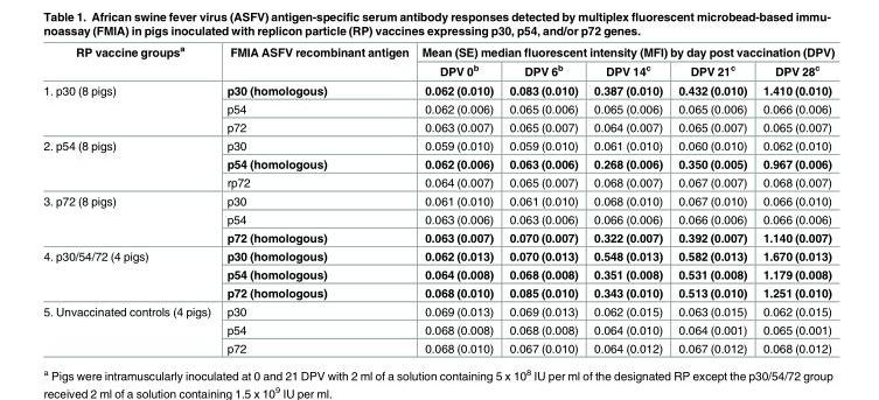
<table><thead><tr><td rowspan="2">RP vaccine groups<sup>a</sup></td><td rowspan="2">FMIA ASFV recombinant antigen</td><td colspan="5">Mean (SE) median fluorescent intensity (MFI) by day post vaccination (DPV)</td></tr><tr><td>DPV 0<sup>b</sup></td><td>DPV 6<sup>b</sup></td><td>DPV 14<sup>c</sup></td><td>DPV 21<sup>c</sup></td><td>DPV 28<sup>c</sup></td></tr></thead><tbody><tr><td rowspan="3">1. p30 (8 pigs)</td><td>p30 (homologous)</td><td>0.062 (0.010)</td><td>0.083 (0.010)</td><td>0.387 (0.010)</td><td>0.432 (0.010)</td><td>1.410 (0.010)</td></tr><tr><td>p54</td><td>0.062 (0.006)</td><td>0.065 (0.006)</td><td>0.065 (0.006)</td><td>0.065 (0.006)</td><td>0.066 (0.006)</td></tr><tr><td>p72</td><td>0.063 (0.007)</td><td>0.065 (0.007)</td><td>0.064 (0.007)</td><td>0.065 (0.007)</td><td>0.065 (0.007)</td></tr><tr><td rowspan="3">2. p54 (8 pigs)</td><td>p30</td><td>0.059 (0.010)</td><td>0.059 (0.010)</td><td>0.061 (0.010)</td><td>0.060 (0.010)</td><td>0.062 (0.010)</td></tr><tr><td>p54 (homologous)</td><td>0.062 (0.006)</td><td>0.063 (0.006)</td><td>0.268 (0.006)</td><td>0.350 (0.005)</td><td>0.967 (0.006)</td></tr><tr><td>rp72</td><td>0.064 (0.007)</td><td>0.065 (0.007)</td><td>0.068 (0.007)</td><td>0.067 (0.007)</td><td>0.068 (0.007)</td></tr><tr><td rowspan="3">3. p72 (8 pigs)</td><td>p30</td><td>0.061 (0.010)</td><td>0.061 (0.010)</td><td>0.068 (0.010)</td><td>0.067 (0.010)</td><td>0.066 (0.010)</td></tr><tr><td>p54</td><td>0.063 (0.006)</td><td>0.063 (0.006)</td><td>0.066 (0.006)</td><td>0.066 (0.006)</td><td>0.066 (0.006)</td></tr><tr><td>p72 (homologous)</td><td>0.063 (0.007)</td><td>0.070 (0.007)</td><td>0.322 (0.007)</td><td>0.392 (0.007)</td><td>1.140 (0.007)</td></tr><tr><td rowspan="3">4. p30/54/72 (4 pigs)</td><td>p30 (homologous)</td><td>0.062 (0.013)</td><td>0.070 (0.013)</td><td>0.548 (0.013)</td><td>0.582 (0.013)</td><td>1.670 (0.013)</td></tr><tr><td>p54 (homologous)</td><td>0.064 (0.008)</td><td>0.068 (0.008)</td><td>0.351 (0.008)</td><td>0.531 (0.008)</td><td>1.179 (0.008)</td></tr><tr><td>p72 (homologous)</td><td>0.068 (0.010)</td><td>0.085 (0.010)</td><td>0.343 (0.010)</td><td>0.513 (0.010)</td><td>1.251 (0.010)</td></tr><tr><td rowspan="3">5. Unvaccinated controls (4 pigs)</td><td>p30</td><td>0.069 (0.013)</td><td>0.069 (0.013)</td><td>0.062 (0.015)</td><td>0.063 (0.015)</td><td>0.062 (0.015)</td></tr><tr><td>p54</td><td>0.068 (0.008)</td><td>0.068 (0.008)</td><td>0.064 (0.010)</td><td>0.064 (0.001)</td><td>0.065 (0.001)</td></tr><tr><td>p72</td><td>0.068 (0.010)</td><td>0.067 (0.010)</td><td>0.064 (0.012)</td><td>0.067 (0.012)</td><td>0.068 (0.012)</td></tr></tbody></table>